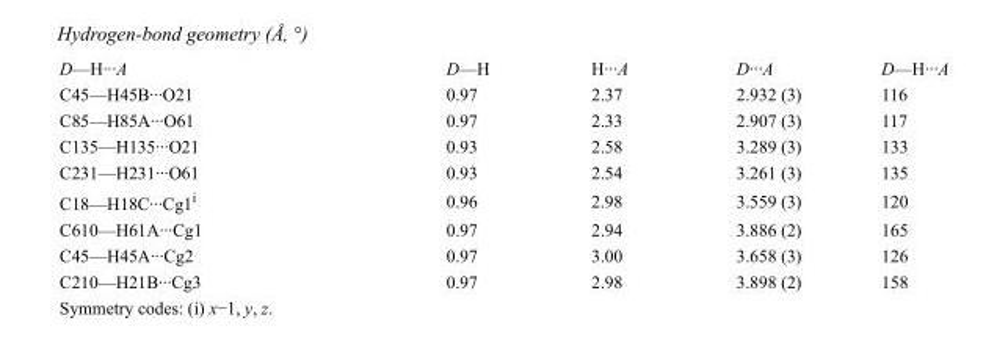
<table><tbody><tr><td>D—H···A</td><td>D—H</td><td>H···A</td><td>D···A</td><td>D—H···A</td></tr><tr><td>C45—H45B···O21</td><td>0.97</td><td>2.37</td><td>2.932 (3)</td><td>116</td></tr><tr><td>C85—H85A···O61</td><td>0.97</td><td>2.33</td><td>2.907 (3)</td><td>117</td></tr><tr><td>C135—H135···O21</td><td>0.93</td><td>2.58</td><td>3.289 (3)</td><td>133</td></tr><tr><td>C231—H231···O61</td><td>0.93</td><td>2.54</td><td>3.261 (3)</td><td>135</td></tr><tr><td>C18—H18C···Cg1<sup>i</sup></td><td>0.96</td><td>2.98</td><td>3.559 (3)</td><td>120</td></tr><tr><td>C610—H61A···Cg1</td><td>0.97</td><td>2.94</td><td>3.886 (2)</td><td>165</td></tr><tr><td>C45—H45A···Cg2</td><td>0.97</td><td>3.00</td><td>3.658 (3)</td><td>126</td></tr><tr><td>C210—H21B···Cg3</td><td>0.97</td><td>2.98</td><td>3.898 (2)</td><td>158</td></tr></tbody></table>